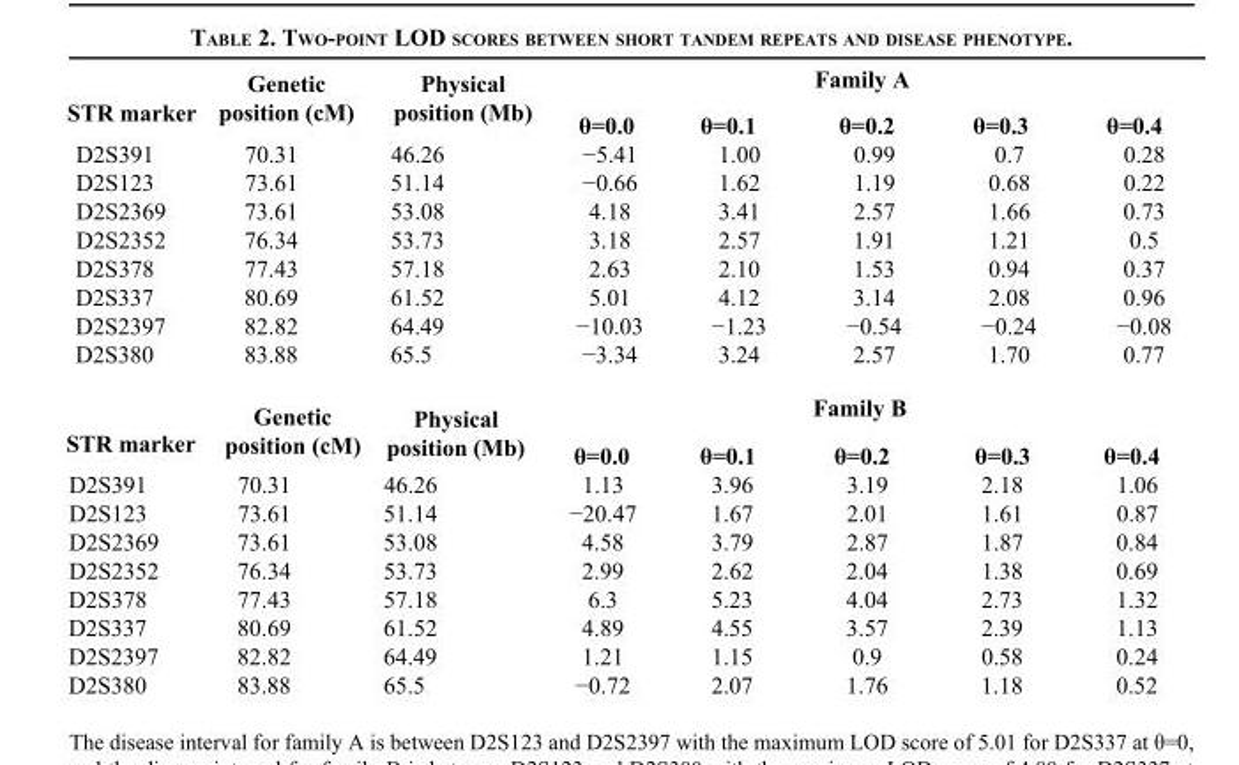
<table><tbody><tr><td rowspan="2">STR marker</td><td rowspan="2">Genetic position (cM)</td><td rowspan="2">Physical position (Mb)</td><td colspan="5">Family A</td></tr><tr><td>θ=0.0</td><td>θ=0.1</td><td>θ=0.2</td><td>θ=0.3</td><td>θ=0.4</td></tr><tr><td>D2S391</td><td>70.31</td><td>46.26</td><td>−5.41</td><td>1.00</td><td>0.99</td><td>0.7</td><td>0.28</td></tr><tr><td>D2S123</td><td>73.61</td><td>51.14</td><td>−0.66</td><td>1.62</td><td>1.19</td><td>0.68</td><td>0.22</td></tr><tr><td>D2S2369</td><td>73.61</td><td>53.08</td><td>4.18</td><td>3.41</td><td>2.57</td><td>1.66</td><td>0.73</td></tr><tr><td>D2S2352</td><td>76.34</td><td>53.73</td><td>3.18</td><td>2.57</td><td>1.91</td><td>1.21</td><td>0.5</td></tr><tr><td>D2S378</td><td>77.43</td><td>57.18</td><td>2.63</td><td>2.10</td><td>1.53</td><td>0.94</td><td>0.37</td></tr><tr><td>D2S337</td><td>80.69</td><td>61.52</td><td>5.01</td><td>4.12</td><td>3.14</td><td>2.08</td><td>0.96</td></tr><tr><td>D2S2397</td><td>82.82</td><td>64.49</td><td>−10.03</td><td>−1.23</td><td>−0.54</td><td>−0.24</td><td>−0.08</td></tr><tr><td>D2S380</td><td>83.88</td><td>65.5</td><td>−3.34</td><td>3.24</td><td>2.57</td><td>1.70</td><td>0.77</td></tr><tr><td rowspan="2">STR marker</td><td rowspan="2">Genetic position (cM)</td><td rowspan="2">Physical position (Mb)</td><td colspan="5">Family B</td></tr><tr><td>θ=0.0</td><td>θ=0.1</td><td>θ=0.2</td><td>θ=0.3</td><td>θ=0.4</td></tr><tr><td>D2S391</td><td>70.31</td><td>46.26</td><td>1.13</td><td>3.96</td><td>3.19</td><td>2.18</td><td>1.06</td></tr><tr><td>D2S123</td><td>73.61</td><td>51.14</td><td>−20.47</td><td>1.67</td><td>2.01</td><td>1.61</td><td>0.87</td></tr><tr><td>D2S2369</td><td>73.61</td><td>53.08</td><td>4.58</td><td>3.79</td><td>2.87</td><td>1.87</td><td>0.84</td></tr><tr><td>D2S2352</td><td>76.34</td><td>53.73</td><td>2.99</td><td>2.62</td><td>2.04</td><td>1.38</td><td>0.69</td></tr><tr><td>D2S378</td><td>77.43</td><td>57.18</td><td>6.3</td><td>5.23</td><td>4.04</td><td>2.73</td><td>1.32</td></tr><tr><td>D2S337</td><td>80.69</td><td>61.52</td><td>4.89</td><td>4.55</td><td>3.57</td><td>2.39</td><td>1.13</td></tr><tr><td>D2S2397</td><td>82.82</td><td>64.49</td><td>1.21</td><td>1.15</td><td>0.9</td><td>0.58</td><td>0.24</td></tr><tr><td>D2S380</td><td>83.88</td><td>65.5</td><td>−0.72</td><td>2.07</td><td>1.76</td><td>1.18</td><td>0.52</td></tr></tbody></table>